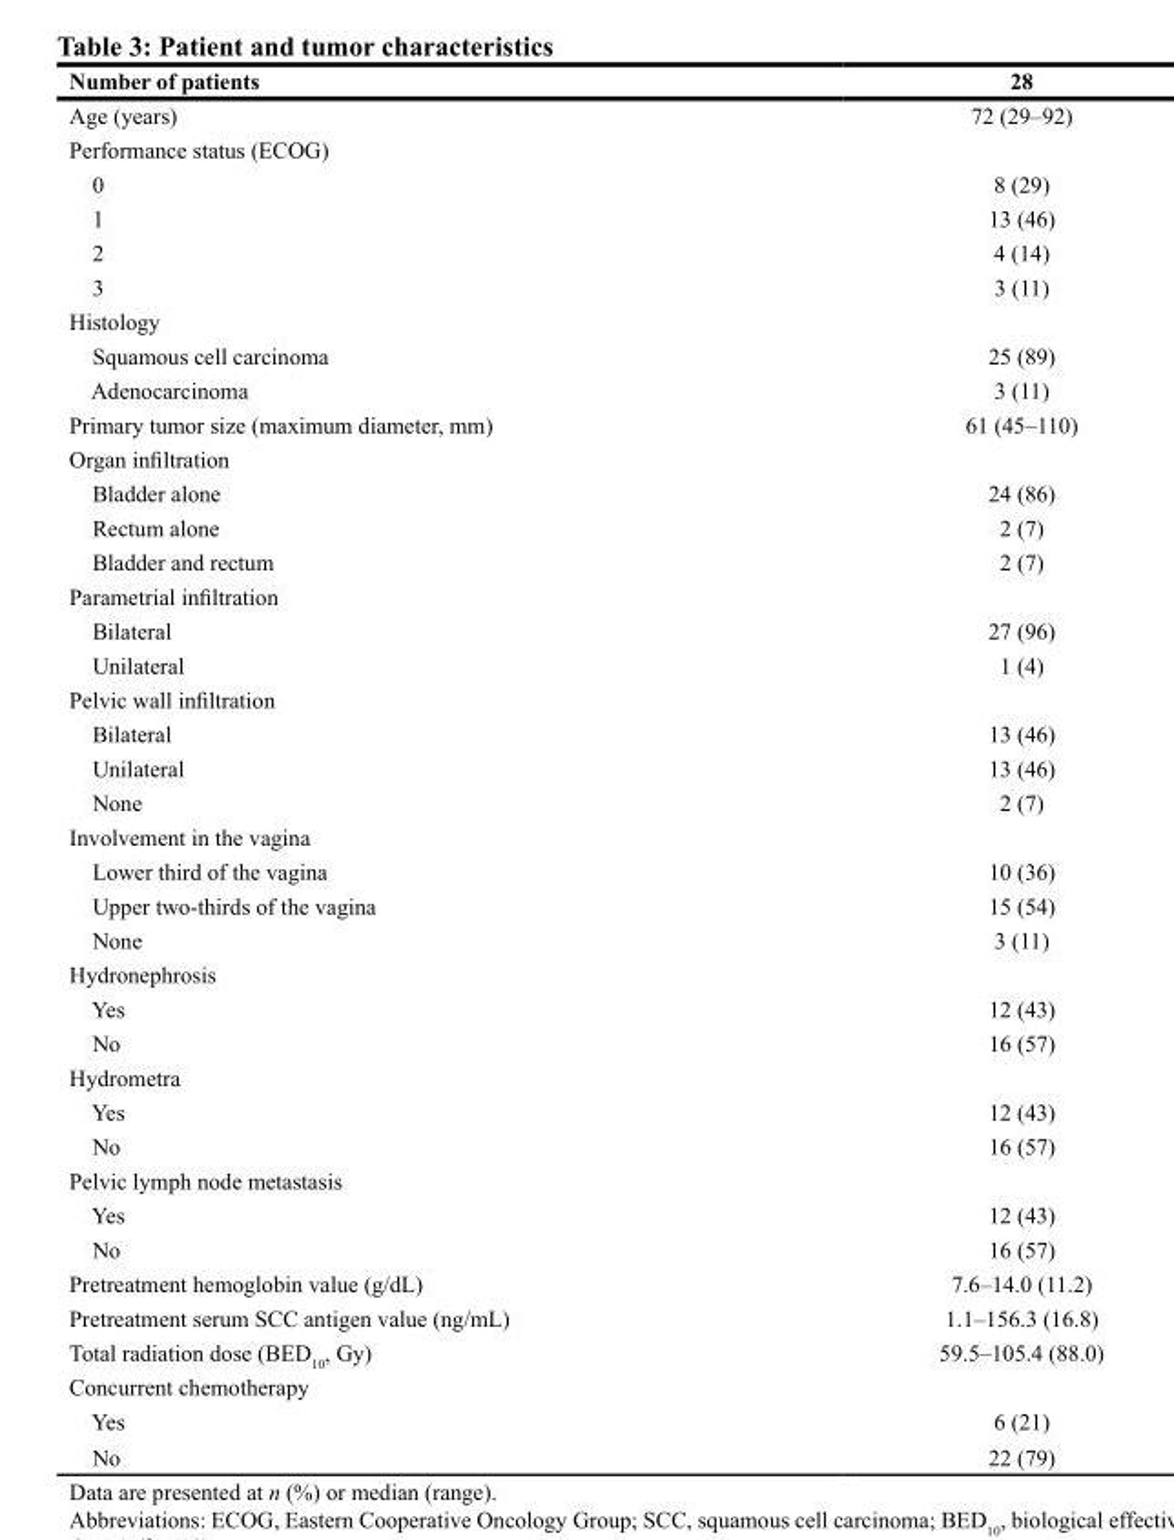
<table><thead><tr><td>Number of patients</td><td>28</td></tr></thead><tbody><tr><td>Age (years)</td><td>72 (29–92)</td></tr><tr><td colspan="2">Performance status (ECOG)</td></tr><tr><td>0</td><td>8 (29)</td></tr><tr><td>1</td><td>13 (46)</td></tr><tr><td>2</td><td>4 (14)</td></tr><tr><td>3</td><td>3 (11)</td></tr><tr><td colspan="2">Histology</td></tr><tr><td>Squamous cell carcinoma</td><td>25 (89)</td></tr><tr><td>Adenocarcinoma</td><td>3 (11)</td></tr><tr><td>Primary tumor size (maximum diameter, mm)</td><td>61 (45–110)</td></tr><tr><td colspan="2">Organ infiltration</td></tr><tr><td>Bladder alone</td><td>24 (86)</td></tr><tr><td>Rectum alone</td><td>2 (7)</td></tr><tr><td>Bladder and rectum</td><td>2 (7)</td></tr><tr><td colspan="2">Parametrial infiltration</td></tr><tr><td>Bilateral</td><td>27 (96)</td></tr><tr><td>Unilateral</td><td>1 (4)</td></tr><tr><td colspan="2">Pelvic wall infiltration</td></tr><tr><td>Bilateral</td><td>13 (46)</td></tr><tr><td>Unilateral</td><td>13 (46)</td></tr><tr><td>None</td><td>2 (7)</td></tr><tr><td colspan="2">Involvement in the vagina</td></tr><tr><td>Lower third of the vagina</td><td>10 (36)</td></tr><tr><td>Upper two-thirds of the vagina</td><td>15 (54)</td></tr><tr><td>None</td><td>3 (11)</td></tr><tr><td colspan="2">Hydronephrosis</td></tr><tr><td>Yes</td><td>12 (43)</td></tr><tr><td>No</td><td>16 (57)</td></tr><tr><td colspan="2">Hydrometra</td></tr><tr><td>Yes</td><td>12 (43)</td></tr><tr><td>No</td><td>16 (57)</td></tr><tr><td colspan="2">Pelvic lymph node metastasis</td></tr><tr><td>Yes</td><td>12 (43)</td></tr><tr><td>No</td><td>16 (57)</td></tr><tr><td>Pretreatment hemoglobin value (g/dL)</td><td>7.6–14.0 (11.2)</td></tr><tr><td>Pretreatment serum SCC antigen value (ng/mL)</td><td>1.1–156.3 (16.8)</td></tr><tr><td>Total radiation dose (BED<sub>10</sub>, Gy)</td><td>59.5–105.4 (88.0)</td></tr><tr><td colspan="2">Concurrent chemotherapy</td></tr><tr><td>Yes</td><td>6 (21)</td></tr><tr><td>No</td><td>22 (79)</td></tr></tbody></table>